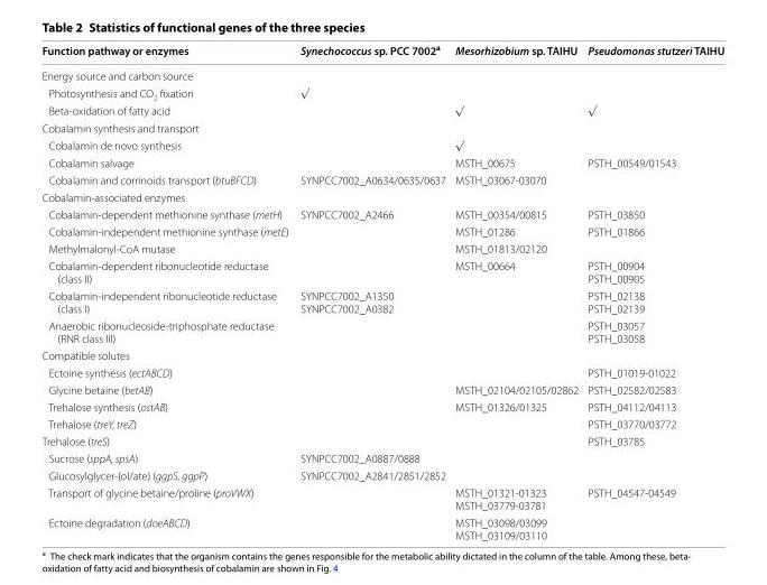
<table><thead><tr><td>Function pathway or enzymes</td><td>Synechococcus sp. PCC 7002<sup>a</sup></td><td>Mesorhizobium sp. TAIHU</td><td>Pseudomonas stutzeri TAIHU</td></tr></thead><tbody><tr><td colspan="4">Energy source and carbon source</td></tr><tr><td>Photosynthesis and CO<sub>2</sub> fixation</td><td>√</td><td></td><td></td></tr><tr><td>Beta-oxidation of fatty acid</td><td></td><td>√</td><td>√</td></tr><tr><td colspan="4">Cobalamin synthesis and transport</td></tr><tr><td>Cobalamin de novo synthesis</td><td></td><td>√</td><td></td></tr><tr><td>Cobalamin salvage</td><td></td><td>MSTH_00675</td><td>PSTH_00549/01543</td></tr><tr><td>Cobalamin and corrinoids transport (btuBFCD)</td><td>SYNPCC7002_A0634/0635/0637</td><td>MSTH_03067-03070</td><td></td></tr><tr><td colspan="4">Cobalamin-associated enzymes</td></tr><tr><td>Cobalamin-dependent methionine synthase (metH)</td><td>SYNPCC7002_A2466</td><td>MSTH_00354/00815</td><td>PSTH_03850</td></tr><tr><td>Cobalamin-independent methionine synthase (metE)</td><td></td><td>MSTH_01286</td><td>PSTH_01866</td></tr><tr><td>Methylmalonyl-CoA mutase</td><td></td><td>MSTH_01813/02120</td><td></td></tr><tr><td>Cobalamin-dependent ribonucleotide reductase (class II)</td><td></td><td>MSTH_00664</td><td>PSTH_00904 PSTH_00905</td></tr><tr><td>Cobalamin-independent ribonucleotide reductase (class I)</td><td>SYNPCC7002_A1350 SYNPCC7002_A0382</td><td></td><td>PSTH_02138 PSTH_02139</td></tr><tr><td>Anaerobic ribonucleoside-triphosphate reductase (RNR class III)</td><td></td><td></td><td>PSTH_03057 PSTH_03058</td></tr><tr><td colspan="4">Compatible solutes</td></tr><tr><td>Ectoine synthesis (ectABCD)</td><td></td><td></td><td>PSTH_01019-01022</td></tr><tr><td>Glycine betaine (betAB)</td><td></td><td>MSTH_02104/02105/02862</td><td>PSTH_02582/02583</td></tr><tr><td>Trehalose synthesis (ostAB)</td><td></td><td>MSTH_01326/01325</td><td>PSTH_04112/04113</td></tr><tr><td>Trehalose (treY, treZ)</td><td></td><td></td><td>PSTH_03770/03772</td></tr><tr><td>Trehalose (treS)</td><td></td><td></td><td>PSTH_03785</td></tr><tr><td>Sucrose (sppA, spsA)</td><td>SYNPCC7002_A0887/0888</td><td></td><td></td></tr><tr><td>Glucosylglycer-(ol/ate) (ggpS, ggpP)</td><td>SYNPCC7002_A2841/2851/2852</td><td></td><td></td></tr><tr><td>Transport of glycine betaine/proline (proVWX)</td><td></td><td>MSTH_01321-01323 MSTH_03779-03781</td><td>PSTH_04547-04549</td></tr><tr><td>Ectoine degradation (doeABCD)</td><td></td><td>MSTH_03098/03099 MSTH_03109/03110</td><td></td></tr></tbody></table>